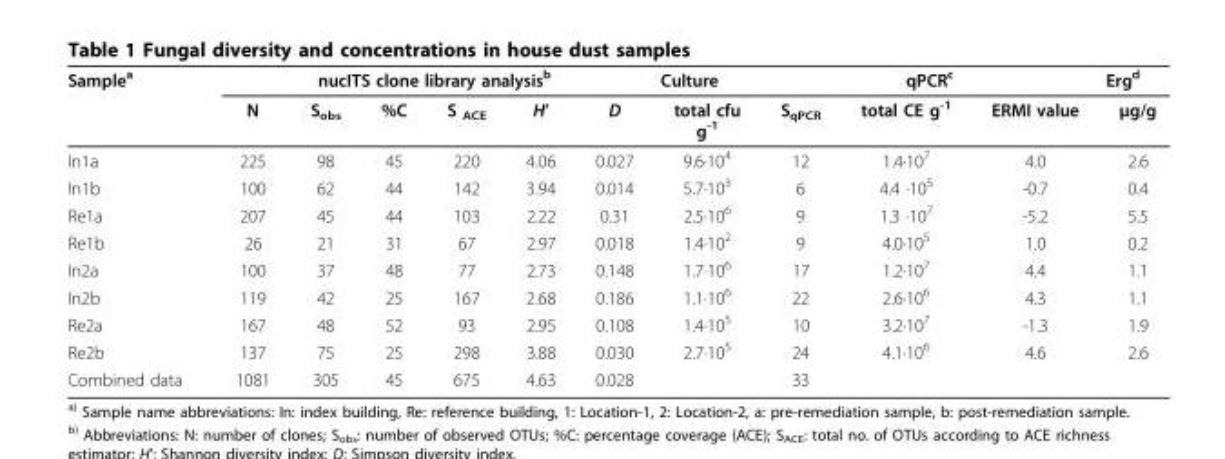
<table><thead><tr><td rowspan="2">Sample<sup>a</sup></td><td colspan="6">nucITS clone library analysis<sup>b</sup></td><td rowspan="2">Culture total cfu g<sup>-1</sup></td><td colspan="3">qPCR<sup>c</sup></td><td rowspan="2">Erg<sup>d</sup> μg/g</td></tr><tr><td>N</td><td>S<sub>obs</sub></td><td>%C</td><td>S <sub>ACE</sub></td><td>H’</td><td>D</td><td>S<sub>qPCR</sub></td><td>total CE g<sup>-1</sup></td><td>ERMI value</td></tr></thead><tbody><tr><td>In1a</td><td>225</td><td>98</td><td>45</td><td>220</td><td>4.06</td><td>0.027</td><td>9.6·10<sup>4</sup></td><td>12</td><td>1.4·10<sup>7</sup></td><td>4.0</td><td>2.6</td></tr><tr><td>In1b</td><td>100</td><td>62</td><td>44</td><td>142</td><td>3.94</td><td>0.014</td><td>5.7·10<sup>3</sup></td><td>6</td><td>4.4 ·10<sup>5</sup></td><td>-0.7</td><td>0.4</td></tr><tr><td>Re1a</td><td>207</td><td>45</td><td>44</td><td>103</td><td>2.22</td><td>0.31</td><td>2.5·10<sup>6</sup></td><td>9</td><td>1.3 ·10<sup>7</sup></td><td>-5.2</td><td>5.5</td></tr><tr><td>Re1b</td><td>26</td><td>21</td><td>31</td><td>67</td><td>2.97</td><td>0.018</td><td>1.4·10<sup>2</sup></td><td>9</td><td>4.0·10<sup>5</sup></td><td>1.0</td><td>0.2</td></tr><tr><td>In2a</td><td>100</td><td>37</td><td>48</td><td>77</td><td>2.73</td><td>0.148</td><td>1.7·10<sup>6</sup></td><td>17</td><td>1.2·10<sup>7</sup></td><td>4.4</td><td>1.1</td></tr><tr><td>In2b</td><td>119</td><td>42</td><td>25</td><td>167</td><td>2.68</td><td>0.186</td><td>1.1·10<sup>6</sup></td><td>22</td><td>2.6·10<sup>6</sup></td><td>4.3</td><td>1.1</td></tr><tr><td>Re2a</td><td>167</td><td>48</td><td>52</td><td>93</td><td>2.95</td><td>0.108</td><td>1.4·10<sup>5</sup></td><td>10</td><td>3.2·10<sup>7</sup></td><td>-1.3</td><td>1.9</td></tr><tr><td>Re2b</td><td>137</td><td>75</td><td>25</td><td>298</td><td>3.88</td><td>0.030</td><td>2.7·10<sup>5</sup></td><td>24</td><td>4.1·10<sup>6</sup></td><td>4.6</td><td>2.6</td></tr><tr><td>Combined data</td><td>1081</td><td>305</td><td>45</td><td>675</td><td>4.63</td><td>0.028</td><td></td><td>33</td><td></td><td></td><td></td></tr></tbody></table>